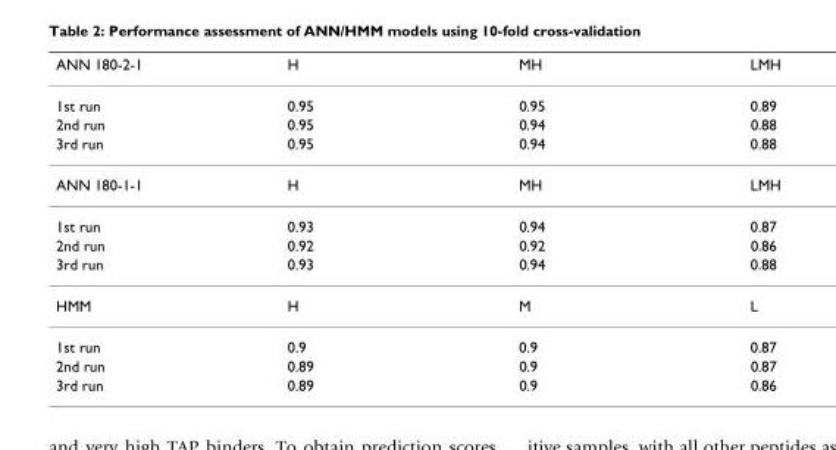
<table><thead><tr><td>ANN 180-2-1</td><td>H</td><td>MH</td><td>LMH</td></tr></thead><tbody><tr><td>1st run</td><td>0.95</td><td>0.95</td><td>0.89</td></tr><tr><td>2nd run</td><td>0.95</td><td>0.94</td><td>0.88</td></tr><tr><td>3rd run</td><td>0.95</td><td>0.94</td><td>0.88</td></tr><tr><td>ANN 180-1-1</td><td>H</td><td>MH</td><td>LMH</td></tr><tr><td>1st run</td><td>0.93</td><td>0.94</td><td>0.87</td></tr><tr><td>2nd run</td><td>0.92</td><td>0.92</td><td>0.86</td></tr><tr><td>3rd run</td><td>0.93</td><td>0.94</td><td>0.88</td></tr><tr><td>HMM</td><td>H</td><td>M</td><td>L</td></tr><tr><td>1st run</td><td>0.9</td><td>0.9</td><td>0.87</td></tr><tr><td>2nd run</td><td>0.89</td><td>0.9</td><td>0.87</td></tr><tr><td>3rd run</td><td>0.89</td><td>0.9</td><td>0.86</td></tr></tbody></table>